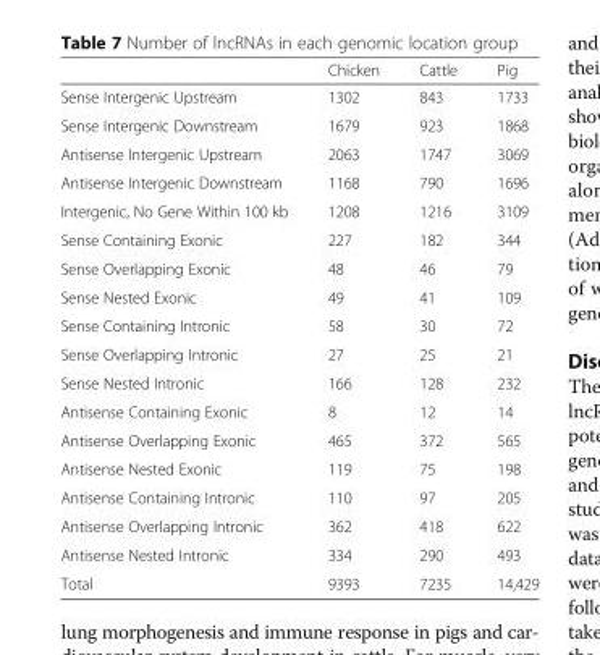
<table><thead><tr><td></td><td>Chicken</td><td>Cattle</td><td>Pig</td></tr></thead><tbody><tr><td>Sense Intergenic Upstream</td><td>1302</td><td>843</td><td>1733</td></tr><tr><td>Sense Intergenic Downstream</td><td>1679</td><td>923</td><td>1868</td></tr><tr><td>Antisense Intergenic Upstream</td><td>2063</td><td>1747</td><td>3069</td></tr><tr><td>Antisense Intergenic Downstream</td><td>1168</td><td>790</td><td>1696</td></tr><tr><td>Intergenic, No Gene Within 100 kb</td><td>1208</td><td>1216</td><td>3109</td></tr><tr><td>Sense Containing Exonic</td><td>227</td><td>182</td><td>344</td></tr><tr><td>Sense Overlapping Exonic</td><td>48</td><td>46</td><td>79</td></tr><tr><td>Sense Nested Exonic</td><td>49</td><td>41</td><td>109</td></tr><tr><td>Sense Containing Intronic</td><td>58</td><td>30</td><td>72</td></tr><tr><td>Sense Overlapping Intronic</td><td>27</td><td>25</td><td>21</td></tr><tr><td>Sense Nested Intronic</td><td>166</td><td>128</td><td>232</td></tr><tr><td>Antisense Containing Exonic</td><td>8</td><td>12</td><td>14</td></tr><tr><td>Antisense Overlapping Exonic</td><td>465</td><td>372</td><td>565</td></tr><tr><td>Antisense Nested Exonic</td><td>119</td><td>75</td><td>198</td></tr><tr><td>Antisense Containing Intronic</td><td>110</td><td>97</td><td>205</td></tr><tr><td>Antisense Overlapping Intronic</td><td>362</td><td>418</td><td>622</td></tr><tr><td>Antisense Nested Intronic</td><td>334</td><td>290</td><td>493</td></tr><tr><td>Total</td><td>9393</td><td>7235</td><td>14,429</td></tr></tbody></table>